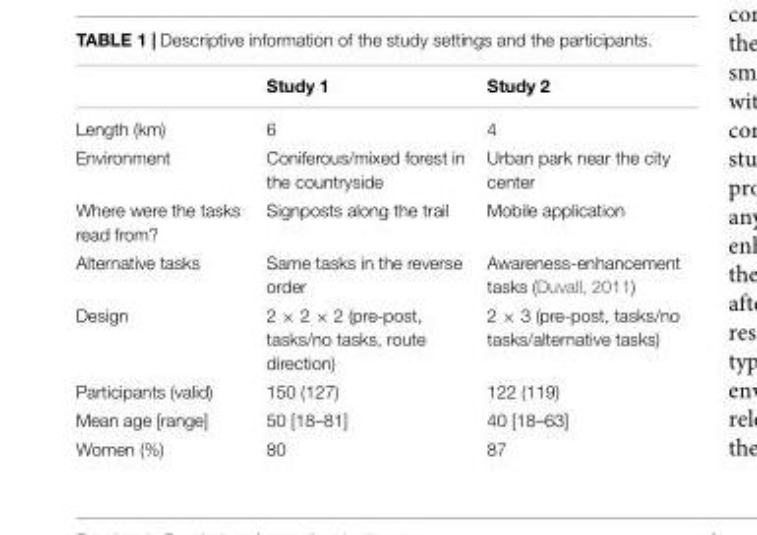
<table><thead><tr><td></td><td>Study 1</td><td>Study 2</td></tr></thead><tbody><tr><td>Length (km)</td><td>6</td><td>4</td></tr><tr><td>Environment</td><td>Coniferous/mixed forest in the countryside</td><td>Urban park near the city center</td></tr><tr><td>Where were the tasks read from?</td><td>Signposts along the trail</td><td>Mobile application</td></tr><tr><td>Alternative tasks</td><td>Same tasks in the reverse order</td><td>Awareness-enhancement tasks (Duvall, 2011)</td></tr><tr><td>Design</td><td>2 × 2 × 2 (pre-post, tasks/no tasks, route direction)</td><td>2 × 3 (pre-post, tasks/no tasks/alternative tasks)</td></tr><tr><td>Participants (valid)</td><td>150 (127)</td><td>122 (119)</td></tr><tr><td>Mean age [range]</td><td>50 [18–81]</td><td>40 [18–63]</td></tr><tr><td>Women (%)</td><td>80</td><td>87</td></tr></tbody></table>